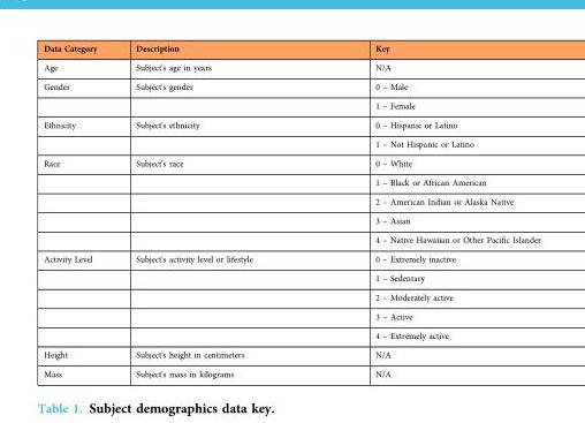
<table><thead><tr><td>Data Category</td><td>Description</td><td>Key</td></tr></thead><tbody><tr><td>Age</td><td>Subject&#x27;s age in years</td><td>N/A</td></tr><tr><td rowspan="2">Gender</td><td>Subject&#x27;s gender</td><td>0 – Male</td></tr><tr><td></td><td>1 – Female</td></tr><tr><td rowspan="2">Ethnicity</td><td>Subject&#x27;s ethnicity</td><td>0 – Hispanic or Latino</td></tr><tr><td></td><td>1 – Not Hispanic or Latino</td></tr><tr><td rowspan="5">Race</td><td>Subject&#x27;s race</td><td>0 – White</td></tr><tr><td></td><td>1 – Black or African American</td></tr><tr><td></td><td>2 – American Indian or Alaska Native</td></tr><tr><td></td><td>3 – Asian</td></tr><tr><td></td><td>4 – Native Hawaiian or Other Pacific Islander</td></tr><tr><td rowspan="5">Activity Level</td><td>Subject&#x27;s activity level or lifestyle</td><td>0 – Extremely inactive</td></tr><tr><td></td><td>1 – Sedentary</td></tr><tr><td></td><td>2 – Moderately active</td></tr><tr><td></td><td>3 – Active</td></tr><tr><td></td><td>4 – Extremely active</td></tr><tr><td>Height</td><td>Subject&#x27;s height in centimeters</td><td>N/A</td></tr><tr><td>Mass</td><td>Subject&#x27;s mass in kilograms</td><td>N/A</td></tr></tbody></table>